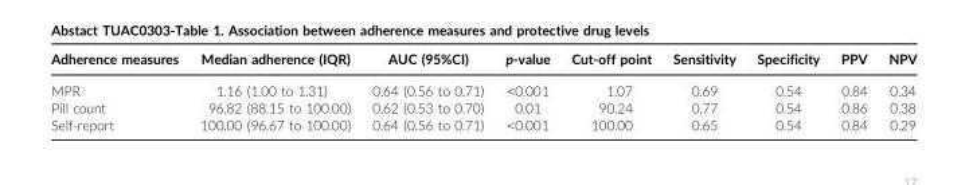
<table><thead><tr><td>Adherence measures</td><td>Median adherence (IQR)</td><td>AUC (95%CI)</td><td>p-value</td><td>Cut-off point</td><td>Sensitivity</td><td>Specificity</td><td>PPV</td><td>NPV</td></tr></thead><tbody><tr><td>MPR</td><td>1.16 (1.00 to 1.31)</td><td>0.64 (0.56 to 0.71)</td><td>&lt;0.001</td><td>1.07</td><td>0.69</td><td>0.54</td><td>0.84</td><td>0.34</td></tr><tr><td>Pill count</td><td>96.82 (88.15 to 100.00)</td><td>0.62 (0.53 to 0.70)</td><td>0.01</td><td>90.24</td><td>0.77</td><td>0.54</td><td>0.86</td><td>0.38</td></tr><tr><td>Self-report</td><td>100.00 (96.67 to 100.00)</td><td>0.64 (0.56 to 0.71)</td><td>&lt;0.001</td><td>100.00</td><td>0.65</td><td>0.54</td><td>0.84</td><td>0.29</td></tr></tbody></table>